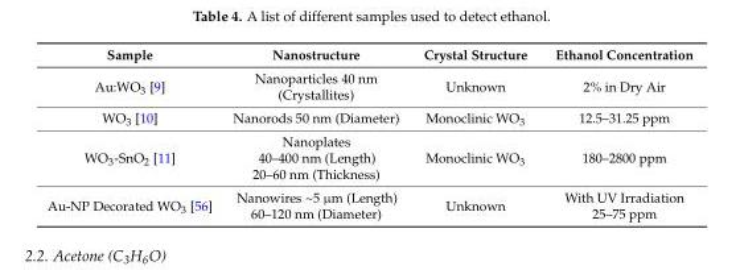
<table><thead><tr><td>Sample</td><td>Nanostructure</td><td>Crystal Structure</td><td>Ethanol Concentration</td></tr></thead><tbody><tr><td>Au:WO<sub>3</sub> [9]</td><td>Nanoparticles 40 nm (Crystallites)</td><td>Unknown</td><td>2% in Dry Air</td></tr><tr><td>WO<sub>3</sub> [10]</td><td>Nanorods 50 nm (Diameter)</td><td>Monoclinic WO<sub>3</sub></td><td>12.5–31.25 ppm</td></tr><tr><td>WO<sub>3</sub>-SnO<sub>2</sub> [11]</td><td>Nanoplates 40–400 nm (Length) 20–60 nm (Thickness)</td><td>Monoclinic WO<sub>3</sub></td><td>180–2800 ppm</td></tr><tr><td>Au-NP Decorated WO<sub>3</sub> [56]</td><td>Nanowires ~5 µm (Length) 60–120 nm (Diameter)</td><td>Unknown</td><td>With UV Irradiation 25–75 ppm</td></tr></tbody></table>